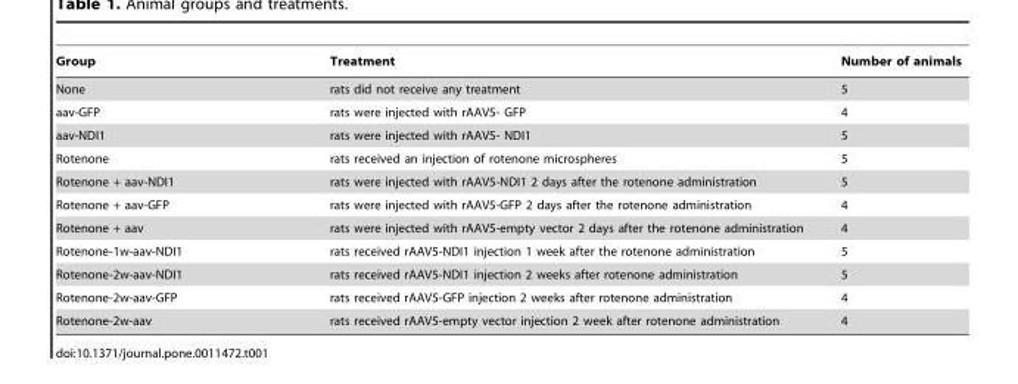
<table><thead><tr><td>Group</td><td>Treatment</td><td>Number of animals</td></tr></thead><tbody><tr><td>None</td><td>rats did not receive any treatment</td><td>5</td></tr><tr><td>aav-GFP</td><td>rats were injected with rAAV5- GFP</td><td>4</td></tr><tr><td>aav-NDI1</td><td>rats were injected with rAAV5- NDI1</td><td>5</td></tr><tr><td>Rotenone</td><td>rats received an injection of rotenone microspheres</td><td>5</td></tr><tr><td>Rotenone + aav-NDI1</td><td>rats were injected with rAAV5-NDI1 2 days after the rotenone administration</td><td>5</td></tr><tr><td>Rotenone + aav-GFP</td><td>rats were injected with rAAV5-GFP 2 days after the rotenone administration</td><td>4</td></tr><tr><td>Rotenone + aav</td><td>rats were injected with rAAV5-empty vector 2 days after the rotenone administration</td><td>4</td></tr><tr><td>Rotenone-1w-aav-NDI1</td><td>rats received rAAV5-NDI1 injection 1 week after the rotenone administration</td><td>5</td></tr><tr><td>Rotenone-2w-aav-NDI1</td><td>rats received rAAV5-NDI1 injection 2 weeks after rotenone administration</td><td>5</td></tr><tr><td>Rotenone-2w-aav-GFP</td><td>rats received rAAV5-GFP injection 2 weeks after rotenone administration</td><td>4</td></tr><tr><td>Rotenone-2w-aav</td><td>rats received rAAV5-empty vector injection 2 week after rotenone administration</td><td>4</td></tr></tbody></table>